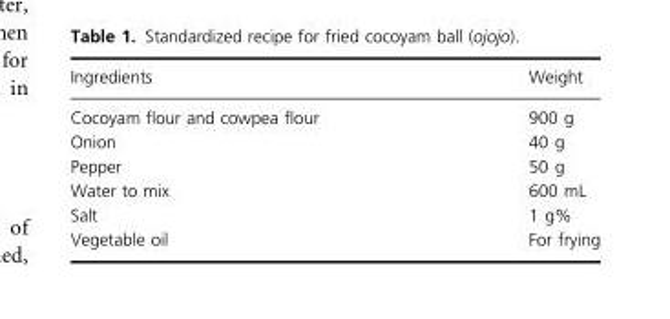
<table><thead><tr><td>Ingredients</td><td>Weight</td></tr></thead><tbody><tr><td>Cocoyam flour and cowpea flour</td><td>900 g</td></tr><tr><td>Onion</td><td>40 g</td></tr><tr><td>Pepper</td><td>50 g</td></tr><tr><td>Water to mix</td><td>600 mL</td></tr><tr><td>Salt</td><td>1 g%</td></tr><tr><td>Vegetable oil</td><td>For frying</td></tr></tbody></table>